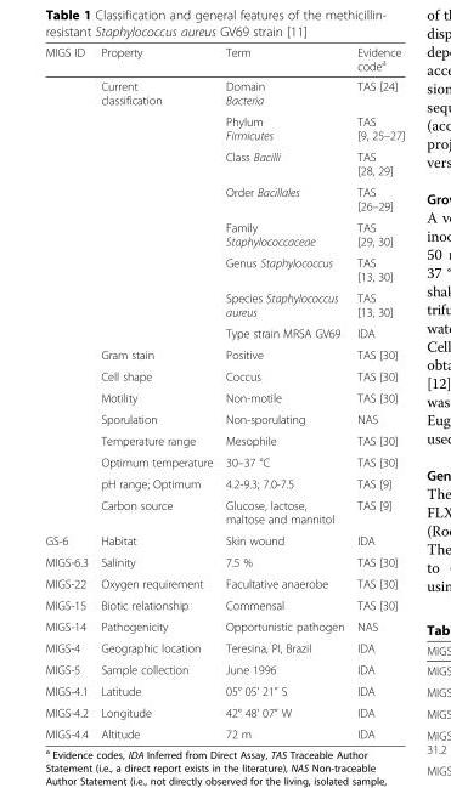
<table><thead><tr><td>MIGS ID</td><td>Property</td><td>Term</td><td>Evidence code<sup>a</sup></td></tr></thead><tbody><tr><td rowspan="8"></td><td rowspan="8">Current classification</td><td>Domain Bacteria</td><td>TAS [24]</td></tr><tr><td>Phylum Firmicutes</td><td>TAS [9, 25–27]</td></tr><tr><td>Class Bacilli</td><td>TAS [28, 29]</td></tr><tr><td>Order Bacillales</td><td>TAS [26–29]</td></tr><tr><td>Family Staphylococcaceae</td><td>TAS [29, 30]</td></tr><tr><td>Genus Staphylococcus</td><td>TAS [13, 30]</td></tr><tr><td>Species Staphylococcus aureus</td><td>TAS [13, 30]</td></tr><tr><td>Type strain MRSA GV69</td><td>IDA</td></tr><tr><td></td><td>Gram stain</td><td>Positive</td><td>TAS [30]</td></tr><tr><td></td><td>Cell shape</td><td>Coccus</td><td>TAS [30]</td></tr><tr><td></td><td>Motility</td><td>Non-motile</td><td>TAS [30]</td></tr><tr><td></td><td>Sporulation</td><td>Non-sporulating</td><td>NAS</td></tr><tr><td></td><td>Temperature range</td><td>Mesophile</td><td>TAS [30]</td></tr><tr><td></td><td>Optimum temperature</td><td>30–37 °C</td><td>TAS [30]</td></tr><tr><td></td><td>pH range; Optimum</td><td>4.2-9.3; 7.0-7.5</td><td>TAS [9]</td></tr><tr><td></td><td>Carbon source</td><td>Glucose, lactose, maltose and mannitol</td><td>TAS [9]</td></tr><tr><td>GS-6</td><td>Habitat</td><td>Skin wound</td><td>IDA</td></tr><tr><td>MIGS-6.3</td><td>Salinity</td><td>7.5 %</td><td>TAS [30]</td></tr><tr><td>MIGS-22</td><td>Oxygen requirement</td><td>Facultative anaerobe</td><td>TAS [30]</td></tr><tr><td>MIGS-15</td><td>Biotic relationship</td><td>Commensal</td><td>TAS [30]</td></tr><tr><td>MIGS-14</td><td>Pathogenicity</td><td>Opportunistic pathogen</td><td>NAS</td></tr><tr><td>MIGS-4</td><td>Geographic location</td><td>Teresina, PI, Brazil</td><td>IDA</td></tr><tr><td>MIGS-5</td><td>Sample collection</td><td>June 1996</td><td>IDA</td></tr><tr><td>MIGS-4.1</td><td>Latitude</td><td>05° 05’ 21” S</td><td>IDA</td></tr><tr><td>MIGS-4.2</td><td>Longitude</td><td>42° 48’ 07” W</td><td>IDA</td></tr><tr><td>MIGS-4.4</td><td>Altitude</td><td>72 m</td><td>IDA</td></tr></tbody></table>